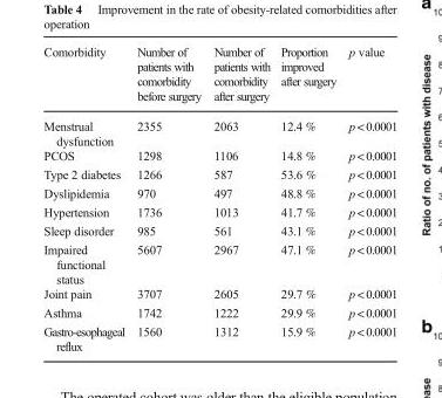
<table><thead><tr><td>Comorbidity</td><td>Number of patients with comorbidity before surgery</td><td>Number of patients with comorbidity after surgery</td><td>Proportion improved after surgery</td><td>p value</td></tr></thead><tbody><tr><td>Menstrual dysfunction</td><td>2355</td><td>2063</td><td>12.4 %</td><td>p&lt; 0.0001</td></tr><tr><td>PCOS</td><td>1298</td><td>1106</td><td>14.8 %</td><td>p&lt; 0.0001</td></tr><tr><td>Type 2 diabetes</td><td>1266</td><td>587</td><td>53.6 %</td><td>p&lt; 0.0001</td></tr><tr><td>Dyslipidemia</td><td>970</td><td>497</td><td>48.8 %</td><td>p&lt; 0.0001</td></tr><tr><td>Hypertension</td><td>1736</td><td>1013</td><td>41.7 %</td><td>p&lt; 0.0001</td></tr><tr><td>Sleep disorder</td><td>985</td><td>561</td><td>43.1 %</td><td>p&lt; 0.0001</td></tr><tr><td>Impaired functional status</td><td>5607</td><td>2967</td><td>47.1 %</td><td>p&lt; 0.0001</td></tr><tr><td>Joint pain</td><td>3707</td><td>2605</td><td>29.7 %</td><td>p&lt; 0.0001</td></tr><tr><td>Asthma</td><td>1742</td><td>1222</td><td>29.9 %</td><td>p&lt; 0.0001</td></tr><tr><td>Gastro-esophageal reflux</td><td>1560</td><td>1312</td><td>15.9 %</td><td>p&lt; 0.0001</td></tr></tbody></table>